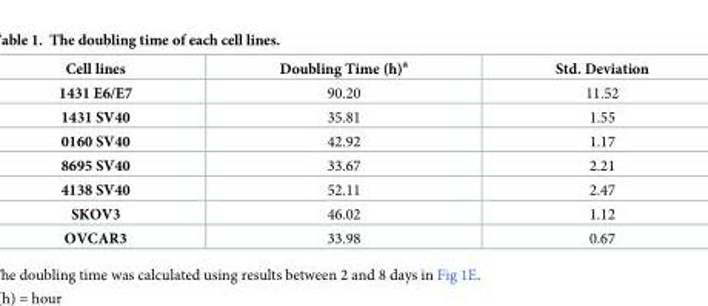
<table><thead><tr><td>Cell lines</td><td>Doubling Time (h)<sup>a</sup></td><td>Std. Deviation</td></tr></thead><tbody><tr><td>1431 E6/E7</td><td>90.20</td><td>11.52</td></tr><tr><td>1431 SV40</td><td>35.81</td><td>1.55</td></tr><tr><td>0160 SV40</td><td>42.92</td><td>1.17</td></tr><tr><td>8695 SV40</td><td>33.67</td><td>2.21</td></tr><tr><td>4138 SV40</td><td>52.11</td><td>2.47</td></tr><tr><td>SKOV3</td><td>46.02</td><td>1.12</td></tr><tr><td>OVCAR3</td><td>33.98</td><td>0.67</td></tr></tbody></table>